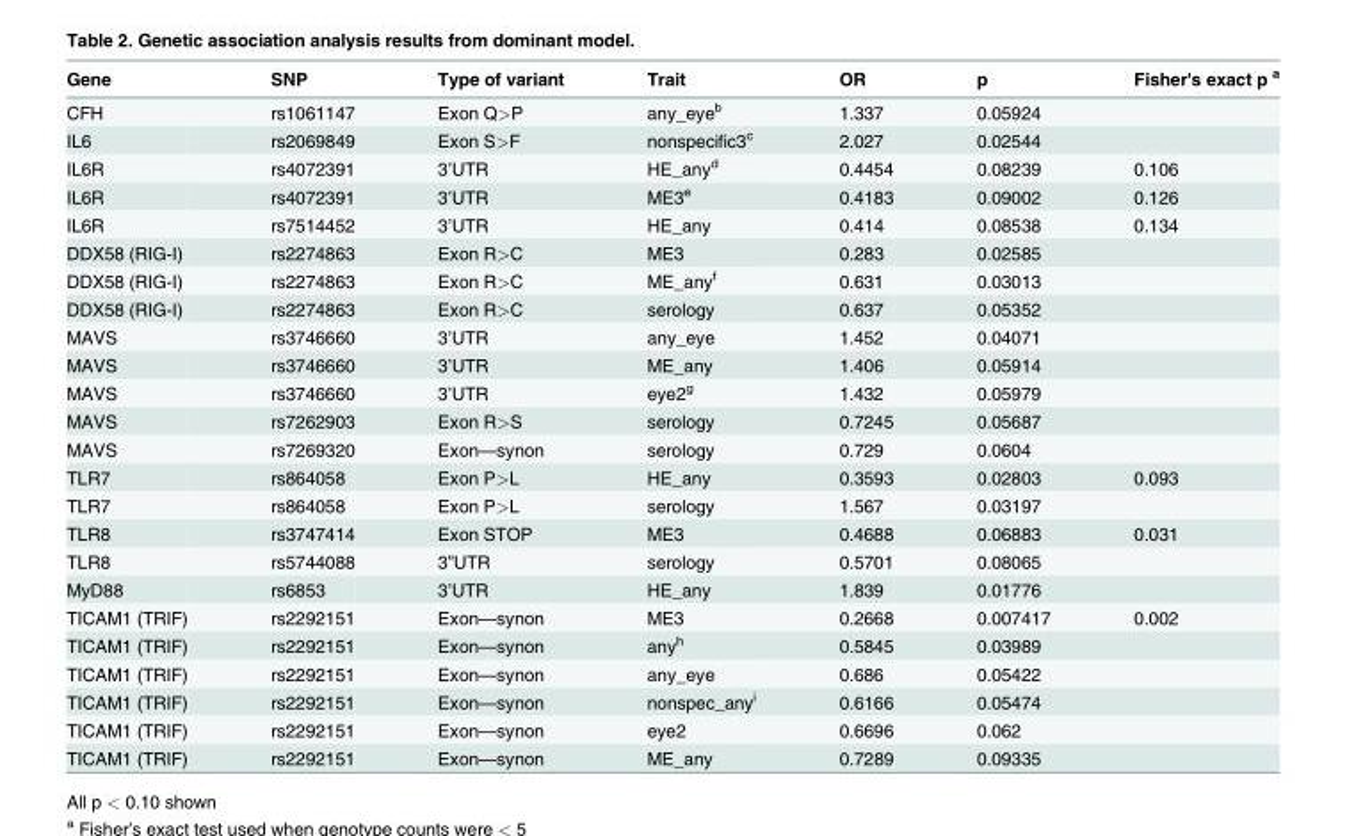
<table><thead><tr><td>Gene</td><td>SNP</td><td>Type of variant</td><td>Trait</td><td>OR</td><td>p</td><td>Fisher&#x27;s exact p <sup>a</sup></td></tr></thead><tbody><tr><td>CFH</td><td>rs1061147</td><td>Exon Q&gt;P</td><td>any_eye<sup>b</sup></td><td>1.337</td><td>0.05924</td><td></td></tr><tr><td>IL6</td><td>rs2069849</td><td>Exon S&gt;F</td><td>nonspecific3<sup>c</sup></td><td>2.027</td><td>0.02544</td><td></td></tr><tr><td>IL6R</td><td>rs4072391</td><td>3’UTR</td><td>HE_any<sup>d</sup></td><td>0.4454</td><td>0.08239</td><td>0.106</td></tr><tr><td>IL6R</td><td>rs4072391</td><td>3’UTR</td><td>ME3<sup>e</sup></td><td>0.4183</td><td>0.09002</td><td>0.126</td></tr><tr><td>IL6R</td><td>rs7514452</td><td>3’UTR</td><td>HE_any</td><td>0.414</td><td>0.08538</td><td>0.134</td></tr><tr><td>DDX58 (RIG-I)</td><td>rs2274863</td><td>Exon R&gt;C</td><td>ME3</td><td>0.283</td><td>0.02585</td><td></td></tr><tr><td>DDX58 (RIG-I)</td><td>rs2274863</td><td>Exon R&gt;C</td><td>ME_any<sup>f</sup></td><td>0.631</td><td>0.03013</td><td></td></tr><tr><td>DDX58 (RIG-I)</td><td>rs2274863</td><td>Exon R&gt;C</td><td>serology</td><td>0.637</td><td>0.05352</td><td></td></tr><tr><td>MAVS</td><td>rs3746660</td><td>3’UTR</td><td>any_eye</td><td>1.452</td><td>0.04071</td><td></td></tr><tr><td>MAVS</td><td>rs3746660</td><td>3’UTR</td><td>ME_any</td><td>1.406</td><td>0.05914</td><td></td></tr><tr><td>MAVS</td><td>rs3746660</td><td>3’UTR</td><td>eye2<sup>g</sup></td><td>1.432</td><td>0.05979</td><td></td></tr><tr><td>MAVS</td><td>rs7262903</td><td>Exon R&gt;S</td><td>serology</td><td>0.7245</td><td>0.05687</td><td></td></tr><tr><td>MAVS</td><td>rs7269320</td><td>Exon—synon</td><td>serology</td><td>0.729</td><td>0.0604</td><td></td></tr><tr><td>TLR7</td><td>rs864058</td><td>Exon P&gt;L</td><td>HE_any</td><td>0.3593</td><td>0.02803</td><td>0.093</td></tr><tr><td>TLR7</td><td>rs864058</td><td>Exon P&gt;L</td><td>serology</td><td>1.567</td><td>0.03197</td><td></td></tr><tr><td>TLR8</td><td>rs3747414</td><td>Exon STOP</td><td>ME3</td><td>0.4688</td><td>0.06883</td><td>0.031</td></tr><tr><td>TLR8</td><td>rs5744088</td><td>3”UTR</td><td>serology</td><td>0.5701</td><td>0.08065</td><td></td></tr><tr><td>MyD88</td><td>rs6853</td><td>3’UTR</td><td>HE_any</td><td>1.839</td><td>0.01776</td><td></td></tr><tr><td>TICAM1 (TRIF)</td><td>rs2292151</td><td>Exon—synon</td><td>ME3</td><td>0.2668</td><td>0.007417</td><td>0.002</td></tr><tr><td>TICAM1 (TRIF)</td><td>rs2292151</td><td>Exon—synon</td><td>any<sup>h</sup></td><td>0.5845</td><td>0.03989</td><td></td></tr><tr><td>TICAM1 (TRIF)</td><td>rs2292151</td><td>Exon—synon</td><td>any_eye</td><td>0.686</td><td>0.05422</td><td></td></tr><tr><td>TICAM1 (TRIF)</td><td>rs2292151</td><td>Exon—synon</td><td>nonspec_any<sup>i</sup></td><td>0.6166</td><td>0.05474</td><td></td></tr><tr><td>TICAM1 (TRIF)</td><td>rs2292151</td><td>Exon—synon</td><td>eye2</td><td>0.6696</td><td>0.062</td><td></td></tr><tr><td>TICAM1 (TRIF)</td><td>rs2292151</td><td>Exon—synon</td><td>ME_any</td><td>0.7289</td><td>0.09335</td><td></td></tr></tbody></table>